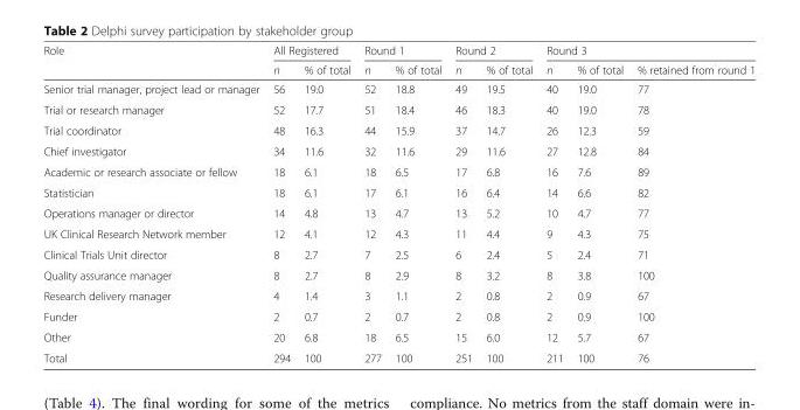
<table><thead><tr><td rowspan="2">Role</td><td colspan="2">All Registered</td><td colspan="2">Round 1</td><td colspan="2">Round 2</td><td colspan="3">Round 3</td></tr><tr><td>n</td><td>% of total</td><td>n</td><td>% of total</td><td>n</td><td>% of total</td><td>n</td><td>% of total</td><td>% retained from round 1</td></tr></thead><tbody><tr><td>Senior trial manager, project lead or manager</td><td>56</td><td>19.0</td><td>52</td><td>18.8</td><td>49</td><td>19.5</td><td>40</td><td>19.0</td><td>77</td></tr><tr><td>Trial or research manager</td><td>52</td><td>17.7</td><td>51</td><td>18.4</td><td>46</td><td>18.3</td><td>40</td><td>19.0</td><td>78</td></tr><tr><td>Trial coordinator</td><td>48</td><td>16.3</td><td>44</td><td>15.9</td><td>37</td><td>14.7</td><td>26</td><td>12.3</td><td>59</td></tr><tr><td>Chief investigator</td><td>34</td><td>11.6</td><td>32</td><td>11.6</td><td>29</td><td>11.6</td><td>27</td><td>12.8</td><td>84</td></tr><tr><td>Academic or research associate or fellow</td><td>18</td><td>6.1</td><td>18</td><td>6.5</td><td>17</td><td>6.8</td><td>16</td><td>7.6</td><td>89</td></tr><tr><td>Statistician</td><td>18</td><td>6.1</td><td>17</td><td>6.1</td><td>16</td><td>6.4</td><td>14</td><td>6.6</td><td>82</td></tr><tr><td>Operations manager or director</td><td>14</td><td>4.8</td><td>13</td><td>4.7</td><td>13</td><td>5.2</td><td>10</td><td>4.7</td><td>77</td></tr><tr><td>UK Clinical Research Network member</td><td>12</td><td>4.1</td><td>12</td><td>4.3</td><td>11</td><td>4.4</td><td>9</td><td>4.3</td><td>75</td></tr><tr><td>Clinical Trials Unit director</td><td>8</td><td>2.7</td><td>7</td><td>2.5</td><td>6</td><td>2.4</td><td>5</td><td>2.4</td><td>71</td></tr><tr><td>Quality assurance manager</td><td>8</td><td>2.7</td><td>8</td><td>2.9</td><td>8</td><td>3.2</td><td>8</td><td>3.8</td><td>100</td></tr><tr><td>Research delivery manager</td><td>4</td><td>1.4</td><td>3</td><td>1.1</td><td>2</td><td>0.8</td><td>2</td><td>0.9</td><td>67</td></tr><tr><td>Funder</td><td>2</td><td>0.7</td><td>2</td><td>0.7</td><td>2</td><td>0.8</td><td>2</td><td>0.9</td><td>100</td></tr><tr><td>Other</td><td>20</td><td>6.8</td><td>18</td><td>6.5</td><td>15</td><td>6.0</td><td>12</td><td>5.7</td><td>67</td></tr><tr><td>Total</td><td>294</td><td>100</td><td>277</td><td>100</td><td>251</td><td>100</td><td>211</td><td>100</td><td>76</td></tr></tbody></table>